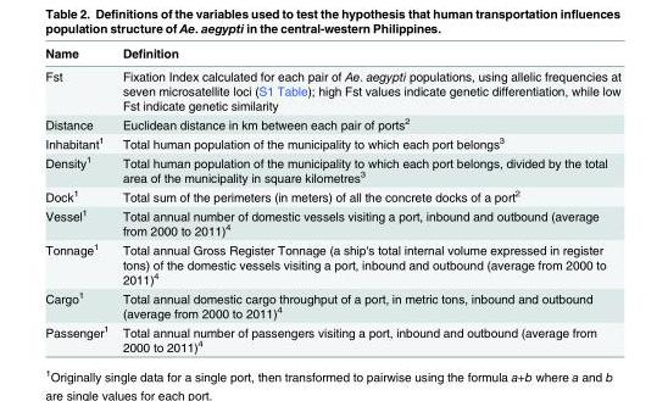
<table><thead><tr><td>Name</td><td>Definition</td></tr></thead><tbody><tr><td>Fst</td><td>Fixation Index calculated for each pair of Ae. aegypti populations, using allelic frequencies at seven microsatellite loci (S1 Table); high Fst values indicate genetic differentiation, while low Fst indicate genetic similarity</td></tr><tr><td>Distance</td><td>Euclidean distance in km between each pair of ports<sup>2</sup></td></tr><tr><td>Inhabitant<sup>1</sup></td><td>Total human population of the municipality to which each port belongs<sup>3</sup></td></tr><tr><td>Density<sup>1</sup></td><td>Total human population of the municipality to which each port belongs, divided by the total area of the municipality in square kilometres<sup>3</sup></td></tr><tr><td>Dock<sup>1</sup></td><td>Total sum of the perimeters (in meters) of all the concrete docks of a port<sup>2</sup></td></tr><tr><td>Vessel<sup>1</sup></td><td>Total annual number of domestic vessels visiting a port, inbound and outbound (average from 2000 to 2011)<sup>4</sup></td></tr><tr><td>Tonnage<sup>1</sup></td><td>Total annual Gross Register Tonnage (a ship&#x27;s total internal volume expressed in register tons) of the domestic vessels visiting a port, inbound and outbound (average from 2000 to 2011)<sup>4</sup></td></tr><tr><td>Cargo<sup>1</sup></td><td>Total annual domestic cargo throughput of a port, in metric tons, inbound and outbound (average from 2000 to 2011)<sup>4</sup></td></tr><tr><td>Passenger<sup>1</sup></td><td>Total annual number of passengers visiting a port, inbound and outbound (average from 2000 to 2011)<sup>4</sup></td></tr></tbody></table>